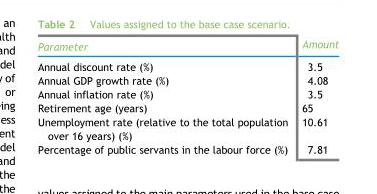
<table><thead><tr><td>Parameter</td><td>Amount</td></tr></thead><tbody><tr><td>Annual discount rate (%)</td><td>3.5</td></tr><tr><td>Annual GDP growth rate (%)</td><td>4.08</td></tr><tr><td>Annual inflation rate (%)</td><td>3.5</td></tr><tr><td>Retirement age (years)</td><td>65</td></tr><tr><td>Unemployment rate (relative to the total population over 16 years) (%)</td><td>10.61</td></tr><tr><td>Percentage of public servants in the labour force (%)</td><td>7.81</td></tr></tbody></table>